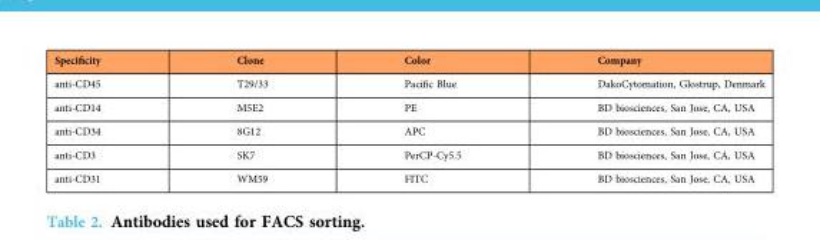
<table><thead><tr><td>Specificity</td><td>Clone</td><td>Color</td><td>Company</td></tr></thead><tbody><tr><td>anti-CD45</td><td>T29/33</td><td>Pacific Blue</td><td>DakoCytomation, Glostrup, Denmark</td></tr><tr><td>anti-CD14</td><td>M5E2</td><td>PE</td><td>BD biosciences, San Jose, CA, USA</td></tr><tr><td>anti-CD34</td><td>8G12</td><td>APC</td><td>BD biosciences, San Jose, CA, USA</td></tr><tr><td>anti-CD3</td><td>SK7</td><td>PerCP-Cy5.5</td><td>BD biosciences, San Jose, CA, USA</td></tr><tr><td>anti-CD31</td><td>WM59</td><td>FITC</td><td>BD biosciences, San Jose, CA, USA</td></tr></tbody></table>